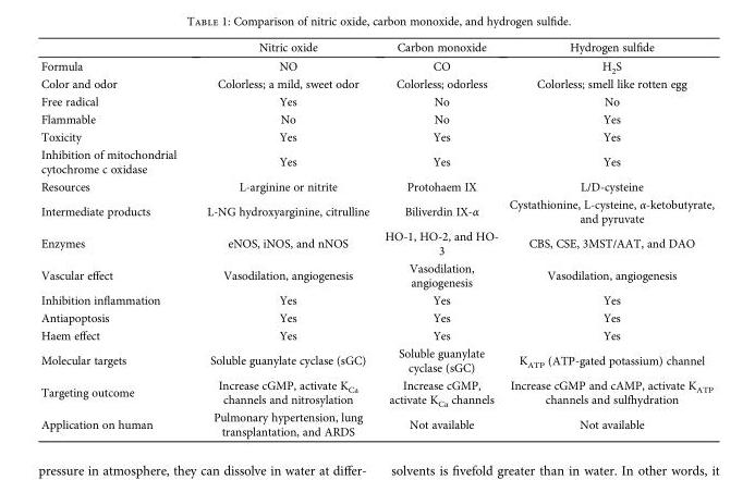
<table><thead><tr><td></td><td>Nitric oxide</td><td>Carbon monoxide</td><td>Hydrogen sulfide</td></tr></thead><tbody><tr><td>Formula</td><td>NO</td><td>CO</td><td>H<sub>2</sub>S</td></tr><tr><td>Color and odor</td><td>Colorless; a mild, sweet odor</td><td>Colorless; odorless</td><td>Colorless; smell like rotten egg</td></tr><tr><td>Free radical</td><td>Yes</td><td>No</td><td>No</td></tr><tr><td>Flammable</td><td>No</td><td>No</td><td>Yes</td></tr><tr><td>Toxicity</td><td>Yes</td><td>Yes</td><td>Yes</td></tr><tr><td>Inhibition of mitochondrial cytochrome c oxidase</td><td>Yes</td><td>Yes</td><td>Yes</td></tr><tr><td>Resources</td><td>L-arginine or nitrite</td><td>Protohaem IX</td><td>L/D-cysteine</td></tr><tr><td>Intermediate products</td><td>L-NG hydroxyarginine, citrulline</td><td>Biliverdin IX-α</td><td>Cystathionine, L-cysteine, α-ketobutyrate, and pyruvate</td></tr><tr><td>Enzymes</td><td>eNOS, iNOS, and nNOS</td><td>HO-1, HO-2, and HO- 3</td><td>CBS, CSE, 3MST/AAT, and DAO</td></tr><tr><td>Vascular effect</td><td>Vasodilation, angiogenesis</td><td>Vasodilation, angiogenesis</td><td>Vasodilation, angiogenesis</td></tr><tr><td>Inhibition inflammation</td><td>Yes</td><td>Yes</td><td>Yes</td></tr><tr><td>Antiapoptosis</td><td>Yes</td><td>Yes</td><td>Yes</td></tr><tr><td>Haem effect</td><td>Yes</td><td>Yes</td><td>Yes</td></tr><tr><td>Molecular targets</td><td>Soluble guanylate cyclase (sGC)</td><td>Soluble guanylate cyclase (sGC)</td><td>K<sub>ATP</sub> (ATP-gated potassium) channel</td></tr><tr><td>Targeting outcome</td><td>Increase cGMP, activate K<sub>Ca</sub> channels and nitrosylation</td><td>Increase cGMP, activate K<sub>Ca</sub> channels</td><td>Increase cGMP and cAMP, activate K<sub>ATP</sub> channels and sulfhydration</td></tr><tr><td>Application on human</td><td>Pulmonary hypertension, lung transplantation, and ARDS</td><td>Not available</td><td>Not available</td></tr></tbody></table>